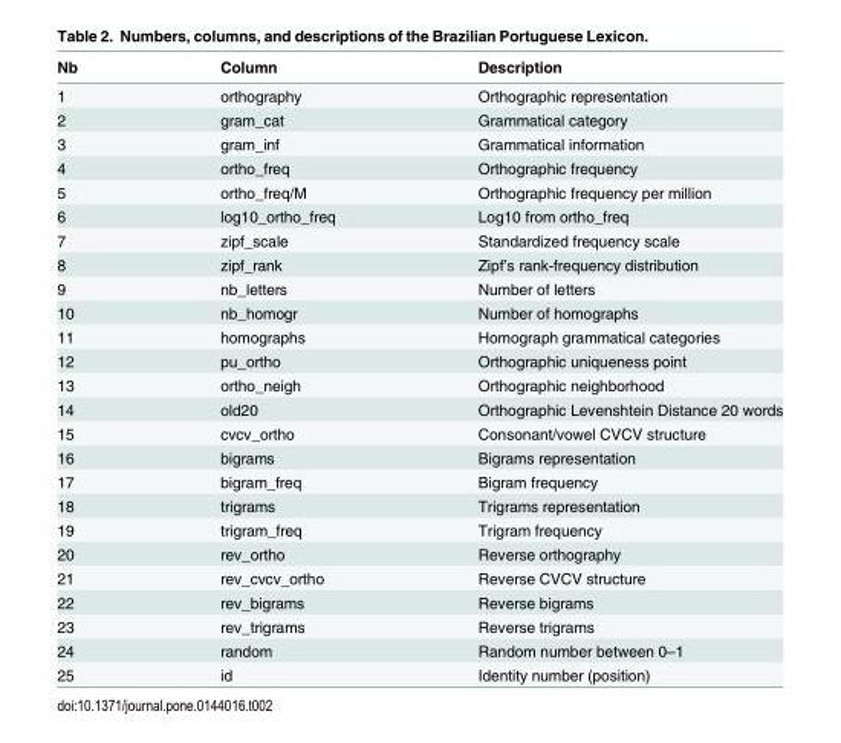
<table><thead><tr><td>Nb</td><td>Column</td><td>Description</td></tr></thead><tbody><tr><td>1</td><td>orthography</td><td>Orthographic representation</td></tr><tr><td>2</td><td>gram_cat</td><td>Grammatical category</td></tr><tr><td>3</td><td>gram_inf</td><td>Grammatical information</td></tr><tr><td>4</td><td>ortho_freq</td><td>Orthographic frequency</td></tr><tr><td>5</td><td>ortho_freq/M</td><td>Orthographic frequency per million</td></tr><tr><td>6</td><td>log10_ortho_freq</td><td>Log10 from ortho_freq</td></tr><tr><td>7</td><td>zipf_scale</td><td>Standardized frequency scale</td></tr><tr><td>8</td><td>zipf_rank</td><td>Zipf’s rank-frequency distribution</td></tr><tr><td>9</td><td>nb_letters</td><td>Number of letters</td></tr><tr><td>10</td><td>nb_homogr</td><td>Number of homographs</td></tr><tr><td>11</td><td>homographs</td><td>Homograph grammatical categories</td></tr><tr><td>12</td><td>pu_ortho</td><td>Orthographic uniqueness point</td></tr><tr><td>13</td><td>ortho_neigh</td><td>Orthographic neighborhood</td></tr><tr><td>14</td><td>old20</td><td>Orthographic Levenshtein Distance 20 words</td></tr><tr><td>15</td><td>cvcv_ortho</td><td>Consonant/vowel CVCV structure</td></tr><tr><td>16</td><td>bigrams</td><td>Bigrams representation</td></tr><tr><td>17</td><td>bigram_freq</td><td>Bigram frequency</td></tr><tr><td>18</td><td>trigrams</td><td>Trigrams representation</td></tr><tr><td>19</td><td>trigram_freq</td><td>Trigram frequency</td></tr><tr><td>20</td><td>rev_ortho</td><td>Reverse orthography</td></tr><tr><td>21</td><td>rev_cvcv_ortho</td><td>Reverse CVCV structure</td></tr><tr><td>22</td><td>rev_bigrams</td><td>Reverse bigrams</td></tr><tr><td>23</td><td>rev_trigrams</td><td>Reverse trigrams</td></tr><tr><td>24</td><td>random</td><td>Random number between 0–1</td></tr><tr><td>25</td><td>id</td><td>Identity number (position)</td></tr></tbody></table>